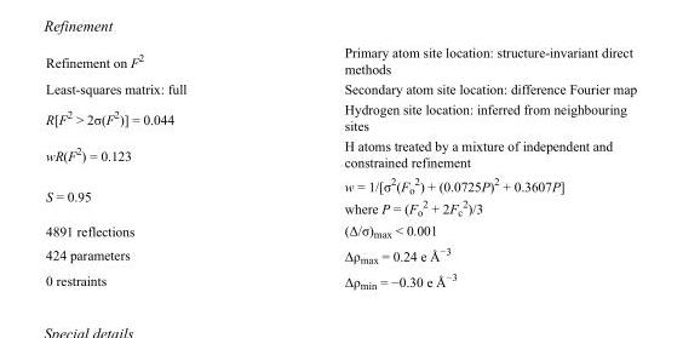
<table><tbody><tr><td>Refinement on F<sup>2</sup></td><td>Primary atom site location: structure-invariant direct methods</td></tr><tr><td>Least-squares matrix: full</td><td>Secondary atom site location: difference Fourier map</td></tr><tr><td>R[F<sup>2</sup> &gt; 2σ(F<sup>2</sup>)] = 0.044</td><td>Hydrogen site location: inferred from neighbouring sites</td></tr><tr><td>wR(F<sup>2</sup>) = 0.123</td><td>H atoms treated by a mixture of independent and constrained refinement</td></tr><tr><td>S = 0.95</td><td>w = 1/[σ<sup>2</sup>(F<sub>o</sub> <sup>2</sup>) + (0.0725P)<sup>2</sup> + 0.3607P] where P = (F<sub>o</sub> <sup>2</sup> + 2F<sub>c</sub> <sup>2</sup>)/3</td></tr><tr><td>4891 reflections</td><td>(Δ/σ)<sub>max</sub> &lt; 0.001</td></tr><tr><td>424 parameters</td><td>Δρ<sub>max</sub> = 0.24 e Å<sup>−3</sup></td></tr><tr><td>0 restraints</td><td>Δρ<sub>min</sub> = −0.30 e Å<sup>−3</sup></td></tr></tbody></table>